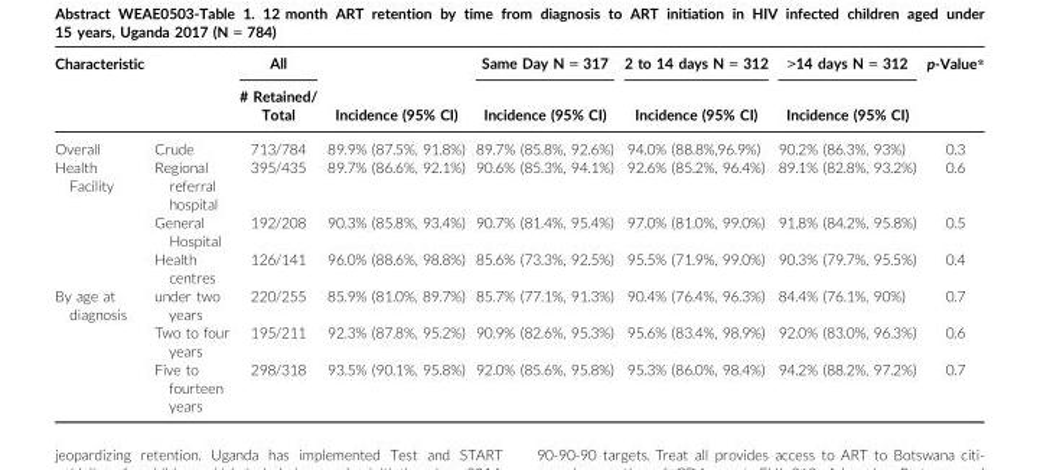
<table><thead><tr><td rowspan="2">Characteristic</td><td rowspan="2"></td><td rowspan="2">All # Retained/ Total</td><td rowspan="2">Incidence (95% CI)</td><td rowspan="2">Same Day N = 317 Incidence (95% CI)</td><td rowspan="2">2 to 14 days N = 312 Incidence (95% CI)</td><td rowspan="2">&gt;14 days N = 312 Incidence (95% CI)</td><td rowspan="2">p-Value*</td></tr><tr></tr></thead><tbody><tr><td>Overall</td><td>Crude</td><td>713/784</td><td>89.9% (87.5%, 91.8%)</td><td>89.7% (85.8%, 92.6%)</td><td>94.0% (88.8%,96.9%)</td><td>90.2% (86.3%, 93%)</td><td>0.3</td></tr><tr><td rowspan="3">Health Facility</td><td>Regional referral hospital</td><td>395/435</td><td>89.7% (86.6%, 92.1%)</td><td>90.6% (85.3%, 94.1%)</td><td>92.6% (85.2%, 96.4%)</td><td>89.1% (82.8%, 93.2%)</td><td>0.6</td></tr><tr><td>General Hospital</td><td>192/208</td><td>90.3% (85.8%, 93.4%)</td><td>90.7% (81.4%, 95.4%)</td><td>97.0% (81.0%, 99.0%)</td><td>91.8% (84.2%, 95.8%)</td><td>0.5</td></tr><tr><td>Health centres</td><td>126/141</td><td>96.0% (88.6%, 98.8%)</td><td>85.6% (73.3%, 92.5%)</td><td>95.5% (71.9%, 99.0%)</td><td>90.3% (79.7%, 95.5%)</td><td>0.4</td></tr><tr><td rowspan="3">By age at diagnosis</td><td>under two years</td><td>220/255</td><td>85.9% (81.0%, 89.7%)</td><td>85.7% (77.1%, 91.3%)</td><td>90.4% (76.4%, 96.3%)</td><td>84.4% (76.1%, 90%)</td><td>0.7</td></tr><tr><td>Two to four years</td><td>195/211</td><td>92.3% (87.8%, 95.2%)</td><td>90.9% (82.6%, 95.3%)</td><td>95.6% (83.4%, 98.9%)</td><td>92.0% (83.0%, 96.3%)</td><td>0.6</td></tr><tr><td>Five to fourteen years</td><td>298/318</td><td>93.5% (90.1%, 95.8%)</td><td>92.0% (85.6%, 95.8%)</td><td>95.3% (86.0%, 98.4%)</td><td>94.2% (88.2%, 97.2%)</td><td>0.7</td></tr></tbody></table>